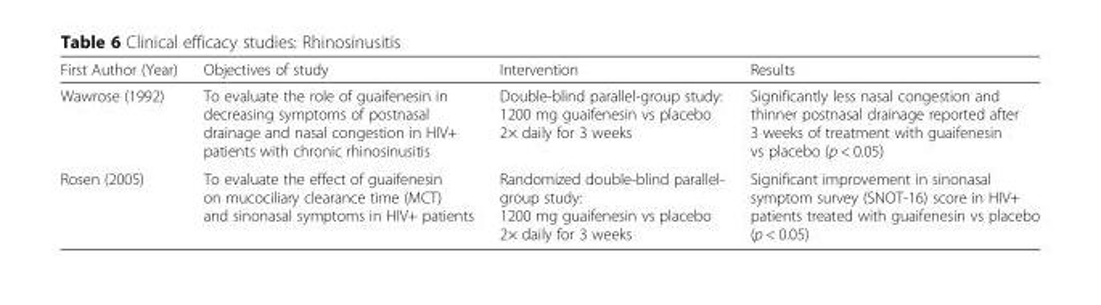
<table><thead><tr><td>First Author (Year)</td><td>Objectives of study</td><td>Intervention</td><td>Results</td></tr></thead><tbody><tr><td>Wawrose (1992)</td><td>To evaluate the role of guaifenesin in decreasing symptoms of postnasal drainage and nasal congestion in HIV+ patients with chronic rhinosinusitis</td><td>Double-blind parallel-group study: 1200 mg guaifenesin vs placebo 2× daily for 3 weeks</td><td>Significantly less nasal congestion and thinner postnasal drainage reported after 3 weeks of treatment with guaifenesin vs placebo (p &lt; 0.05)</td></tr><tr><td>Rosen (2005)</td><td>To evaluate the effect of guaifenesin on mucociliary clearance time (MCT) and sinonasal symptoms in HIV+ patients</td><td>Randomized double-blind parallel- group study: 1200 mg guaifenesin vs placebo 2× daily for 3 weeks</td><td>Significant improvement in sinonasal symptom survey (SNOT-16) score in HIV+ patients treated with guaifenesin vs placebo (p &lt; 0.05)</td></tr></tbody></table>